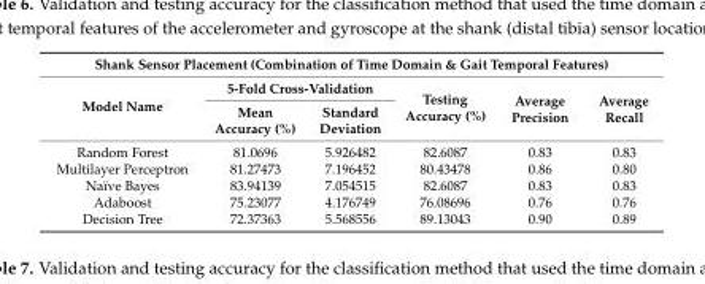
<table><thead><tr><td colspan="6">Shank Sensor Placement (Combination of Time Domain &amp; Gait Temporal Features)</td></tr><tr><td rowspan="2">Model Name</td><td colspan="2">5-Fold Cross-Validation</td><td rowspan="2">Testing Accuracy (%)</td><td rowspan="2">Average Precision</td><td rowspan="2">Average Recall</td></tr><tr><td>Mean Accuracy (%)</td><td>Standard Deviation</td></tr></thead><tbody><tr><td>Random Forest</td><td>81.0696</td><td>5.926482</td><td>82.6087</td><td>0.83</td><td>0.83</td></tr><tr><td>Multilayer Perceptron</td><td>81.27473</td><td>7.196452</td><td>80.43478</td><td>0.86</td><td>0.80</td></tr><tr><td>Naïve Bayes</td><td>83.94139</td><td>7.054515</td><td>82.6087</td><td>0.83</td><td>0.83</td></tr><tr><td>Adaboost</td><td>75.23077</td><td>4.176749</td><td>76.08696</td><td>0.76</td><td>0.76</td></tr><tr><td>Decision Tree</td><td>72.37363</td><td>5.568556</td><td>89.13043</td><td>0.90</td><td>0.89</td></tr></tbody></table>